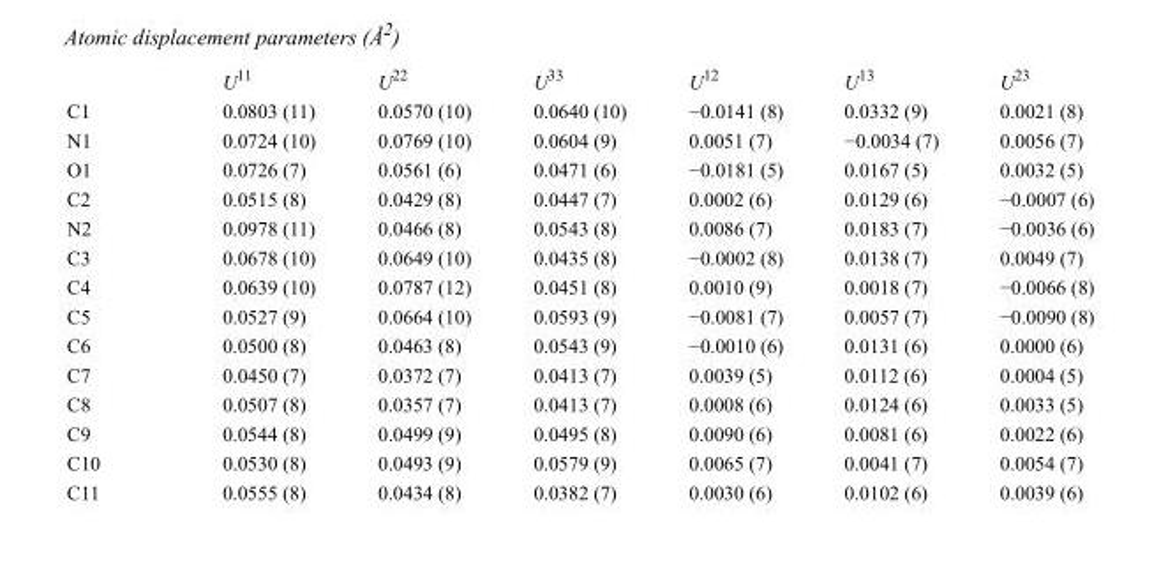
<table><thead><tr><td></td><td>U<sup>11</sup></td><td>U<sup>22</sup></td><td>U<sup>33</sup></td><td>U<sup>12</sup></td><td>U<sup>13</sup></td><td>U<sup>23</sup></td></tr></thead><tbody><tr><td>C1</td><td>0.0803 (11)</td><td>0.0570 (10)</td><td>0.0640 (10)</td><td>−0.0141 (8)</td><td>0.0332 (9)</td><td>0.0021 (8)</td></tr><tr><td>N1</td><td>0.0724 (10)</td><td>0.0769 (10)</td><td>0.0604 (9)</td><td>0.0051 (7)</td><td>−0.0034 (7)</td><td>0.0056 (7)</td></tr><tr><td>O1</td><td>0.0726 (7)</td><td>0.0561 (6)</td><td>0.0471 (6)</td><td>−0.0181 (5)</td><td>0.0167 (5)</td><td>0.0032 (5)</td></tr><tr><td>C2</td><td>0.0515 (8)</td><td>0.0429 (8)</td><td>0.0447 (7)</td><td>0.0002 (6)</td><td>0.0129 (6)</td><td>−0.0007 (6)</td></tr><tr><td>N2</td><td>0.0978 (11)</td><td>0.0466 (8)</td><td>0.0543 (8)</td><td>0.0086 (7)</td><td>0.0183 (7)</td><td>−0.0036 (6)</td></tr><tr><td>C3</td><td>0.0678 (10)</td><td>0.0649 (10)</td><td>0.0435 (8)</td><td>−0.0002 (8)</td><td>0.0138 (7)</td><td>0.0049 (7)</td></tr><tr><td>C4</td><td>0.0639 (10)</td><td>0.0787 (12)</td><td>0.0451 (8)</td><td>0.0010 (9)</td><td>0.0018 (7)</td><td>−0.0066 (8)</td></tr><tr><td>C5</td><td>0.0527 (9)</td><td>0.0664 (10)</td><td>0.0593 (9)</td><td>−0.0081 (7)</td><td>0.0057 (7)</td><td>−0.0090 (8)</td></tr><tr><td>C6</td><td>0.0500 (8)</td><td>0.0463 (8)</td><td>0.0543 (9)</td><td>−0.0010 (6)</td><td>0.0131 (6)</td><td>0.0000 (6)</td></tr><tr><td>C7</td><td>0.0450 (7)</td><td>0.0372 (7)</td><td>0.0413 (7)</td><td>0.0039 (5)</td><td>0.0112 (6)</td><td>0.0004 (5)</td></tr><tr><td>C8</td><td>0.0507 (8)</td><td>0.0357 (7)</td><td>0.0413 (7)</td><td>0.0008 (6)</td><td>0.0124 (6)</td><td>0.0033 (5)</td></tr><tr><td>C9</td><td>0.0544 (8)</td><td>0.0499 (9)</td><td>0.0495 (8)</td><td>0.0090 (6)</td><td>0.0081 (6)</td><td>0.0022 (6)</td></tr><tr><td>C10</td><td>0.0530 (8)</td><td>0.0493 (9)</td><td>0.0579 (9)</td><td>0.0065 (7)</td><td>0.0041 (7)</td><td>0.0054 (7)</td></tr><tr><td>C11</td><td>0.0555 (8)</td><td>0.0434 (8)</td><td>0.0382 (7)</td><td>0.0030 (6)</td><td>0.0102 (6)</td><td>0.0039 (6)</td></tr></tbody></table>